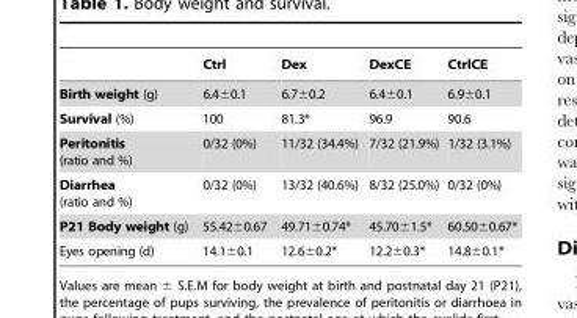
<table><thead><tr><td></td><td>Ctrl</td><td>Dex</td><td>DexCE</td><td>CtrlCE</td></tr></thead><tbody><tr><td>Birth weight (g)</td><td>6.4±0.1</td><td>6.7±0.2</td><td>6.4±0.1</td><td>6.9±0.1</td></tr><tr><td>Survival (%)</td><td>100</td><td>81.3*</td><td>96.9</td><td>90.6</td></tr><tr><td>Peritonitis (ratio and %)</td><td>0/32 (0%)</td><td>11/32 (34.4%)</td><td>7/32 (21.9%)</td><td>1/32 (3.1%)</td></tr><tr><td>Diarrhea (ratio and %)</td><td>0/32 (0%)</td><td>13/32 (40.6%)</td><td>8/32 (25.0%)</td><td>0/32 (0%)</td></tr><tr><td>P21 Body weight (g)</td><td>55.42±0.67</td><td>49.71±0.74*</td><td>45.70±1.5*</td><td>60.50±0.67*</td></tr><tr><td>Eyes opening (d)</td><td>14.1±0.1</td><td>12.6±0.2*</td><td>12.2±0.3*</td><td>14.8±0.1*</td></tr></tbody></table>